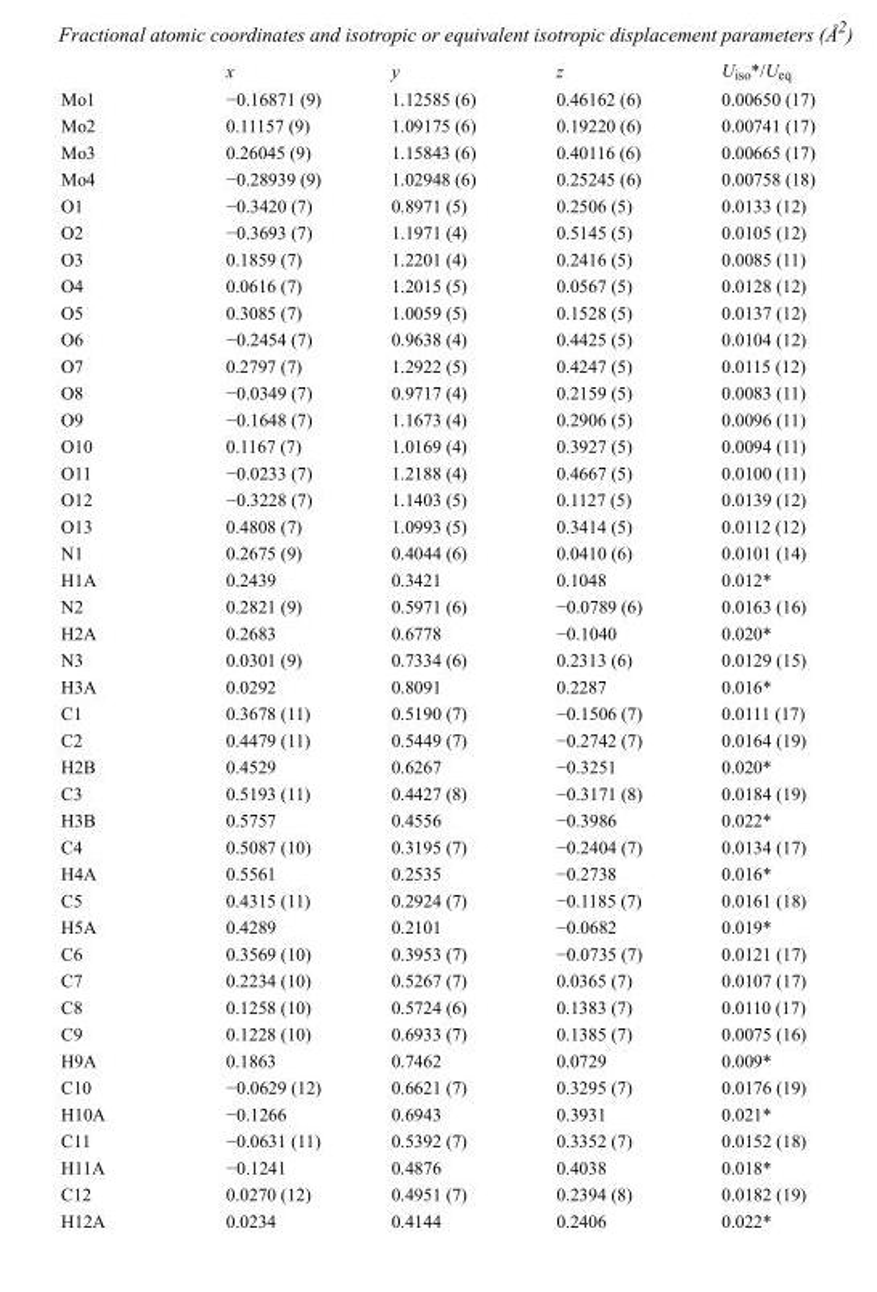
<table><thead><tr><td></td><td>x</td><td>y</td><td>z</td><td>U<sub>iso</sub>*/U<sub>eq</sub></td></tr></thead><tbody><tr><td>Mo1</td><td>−0.16871 (9)</td><td>1.12585 (6)</td><td>0.46162 (6)</td><td>0.00650 (17)</td></tr><tr><td>Mo2</td><td>0.11157 (9)</td><td>1.09175 (6)</td><td>0.19220 (6)</td><td>0.00741 (17)</td></tr><tr><td>Mo3</td><td>0.26045 (9)</td><td>1.15843 (6)</td><td>0.40116 (6)</td><td>0.00665 (17)</td></tr><tr><td>Mo4</td><td>−0.28939 (9)</td><td>1.02948 (6)</td><td>0.25245 (6)</td><td>0.00758 (18)</td></tr><tr><td>O1</td><td>−0.3420 (7)</td><td>0.8971 (5)</td><td>0.2506 (5)</td><td>0.0133 (12)</td></tr><tr><td>O2</td><td>−0.3693 (7)</td><td>1.1971 (4)</td><td>0.5145 (5)</td><td>0.0105 (12)</td></tr><tr><td>O3</td><td>0.1859 (7)</td><td>1.2201 (4)</td><td>0.2416 (5)</td><td>0.0085 (11)</td></tr><tr><td>O4</td><td>0.0616 (7)</td><td>1.2015 (5)</td><td>0.0567 (5)</td><td>0.0128 (12)</td></tr><tr><td>O5</td><td>0.3085 (7)</td><td>1.0059 (5)</td><td>0.1528 (5)</td><td>0.0137 (12)</td></tr><tr><td>O6</td><td>−0.2454 (7)</td><td>0.9638 (4)</td><td>0.4425 (5)</td><td>0.0104 (12)</td></tr><tr><td>O7</td><td>0.2797 (7)</td><td>1.2922 (5)</td><td>0.4247 (5)</td><td>0.0115 (12)</td></tr><tr><td>O8</td><td>−0.0349 (7)</td><td>0.9717 (4)</td><td>0.2159 (5)</td><td>0.0083 (11)</td></tr><tr><td>O9</td><td>−0.1648 (7)</td><td>1.1673 (4)</td><td>0.2906 (5)</td><td>0.0096 (11)</td></tr><tr><td>O10</td><td>0.1167 (7)</td><td>1.0169 (4)</td><td>0.3927 (5)</td><td>0.0094 (11)</td></tr><tr><td>O11</td><td>−0.0233 (7)</td><td>1.2188 (4)</td><td>0.4667 (5)</td><td>0.0100 (11)</td></tr><tr><td>O12</td><td>−0.3228 (7)</td><td>1.1403 (5)</td><td>0.1127 (5)</td><td>0.0139 (12)</td></tr><tr><td>O13</td><td>0.4808 (7)</td><td>1.0993 (5)</td><td>0.3414 (5)</td><td>0.0112 (12)</td></tr><tr><td>N1</td><td>0.2675 (9)</td><td>0.4044 (6)</td><td>0.0410 (6)</td><td>0.0101 (14)</td></tr><tr><td>H1A</td><td>0.2439</td><td>0.3421</td><td>0.1048</td><td>0.012*</td></tr><tr><td>N2</td><td>0.2821 (9)</td><td>0.5971 (6)</td><td>−0.0789 (6)</td><td>0.0163 (16)</td></tr><tr><td>H2A</td><td>0.2683</td><td>0.6778</td><td>−0.1040</td><td>0.020*</td></tr><tr><td>N3</td><td>0.0301 (9)</td><td>0.7334 (6)</td><td>0.2313 (6)</td><td>0.0129 (15)</td></tr><tr><td>H3A</td><td>0.0292</td><td>0.8091</td><td>0.2287</td><td>0.016*</td></tr><tr><td>C1</td><td>0.3678 (11)</td><td>0.5190 (7)</td><td>−0.1506 (7)</td><td>0.0111 (17)</td></tr><tr><td>C2</td><td>0.4479 (11)</td><td>0.5449 (7)</td><td>−0.2742 (7)</td><td>0.0164 (19)</td></tr><tr><td>H2B</td><td>0.4529</td><td>0.6267</td><td>−0.3251</td><td>0.020*</td></tr><tr><td>C3</td><td>0.5193 (11)</td><td>0.4427 (8)</td><td>−0.3171 (8)</td><td>0.0184 (19)</td></tr><tr><td>H3B</td><td>0.5757</td><td>0.4556</td><td>−0.3986</td><td>0.022*</td></tr><tr><td>C4</td><td>0.5087 (10)</td><td>0.3195 (7)</td><td>−0.2404 (7)</td><td>0.0134 (17)</td></tr><tr><td>H4A</td><td>0.5561</td><td>0.2535</td><td>−0.2738</td><td>0.016*</td></tr><tr><td>C5</td><td>0.4315 (11)</td><td>0.2924 (7)</td><td>−0.1185 (7)</td><td>0.0161 (18)</td></tr><tr><td>H5A</td><td>0.4289</td><td>0.2101</td><td>−0.0682</td><td>0.019*</td></tr><tr><td>C6</td><td>0.3569 (10)</td><td>0.3953 (7)</td><td>−0.0735 (7)</td><td>0.0121 (17)</td></tr><tr><td>C7</td><td>0.2234 (10)</td><td>0.5267 (7)</td><td>0.0365 (7)</td><td>0.0107 (17)</td></tr><tr><td>C8</td><td>0.1258 (10)</td><td>0.5724 (6)</td><td>0.1383 (7)</td><td>0.0110 (17)</td></tr><tr><td>C9</td><td>0.1228 (10)</td><td>0.6933 (7)</td><td>0.1385 (7)</td><td>0.0075 (16)</td></tr><tr><td>H9A</td><td>0.1863</td><td>0.7462</td><td>0.0729</td><td>0.009*</td></tr><tr><td>C10</td><td>−0.0629 (12)</td><td>0.6621 (7)</td><td>0.3295 (7)</td><td>0.0176 (19)</td></tr><tr><td>H10A</td><td>−0.1266</td><td>0.6943</td><td>0.3931</td><td>0.021*</td></tr><tr><td>C11</td><td>−0.0631 (11)</td><td>0.5392 (7)</td><td>0.3352 (7)</td><td>0.0152 (18)</td></tr><tr><td>H11A</td><td>−0.1241</td><td>0.4876</td><td>0.4038</td><td>0.018*</td></tr><tr><td>C12</td><td>0.0270 (12)</td><td>0.4951 (7)</td><td>0.2394 (8)</td><td>0.0182 (19)</td></tr><tr><td>H12A</td><td>0.0234</td><td>0.4144</td><td>0.2406</td><td>0.022*</td></tr></tbody></table>